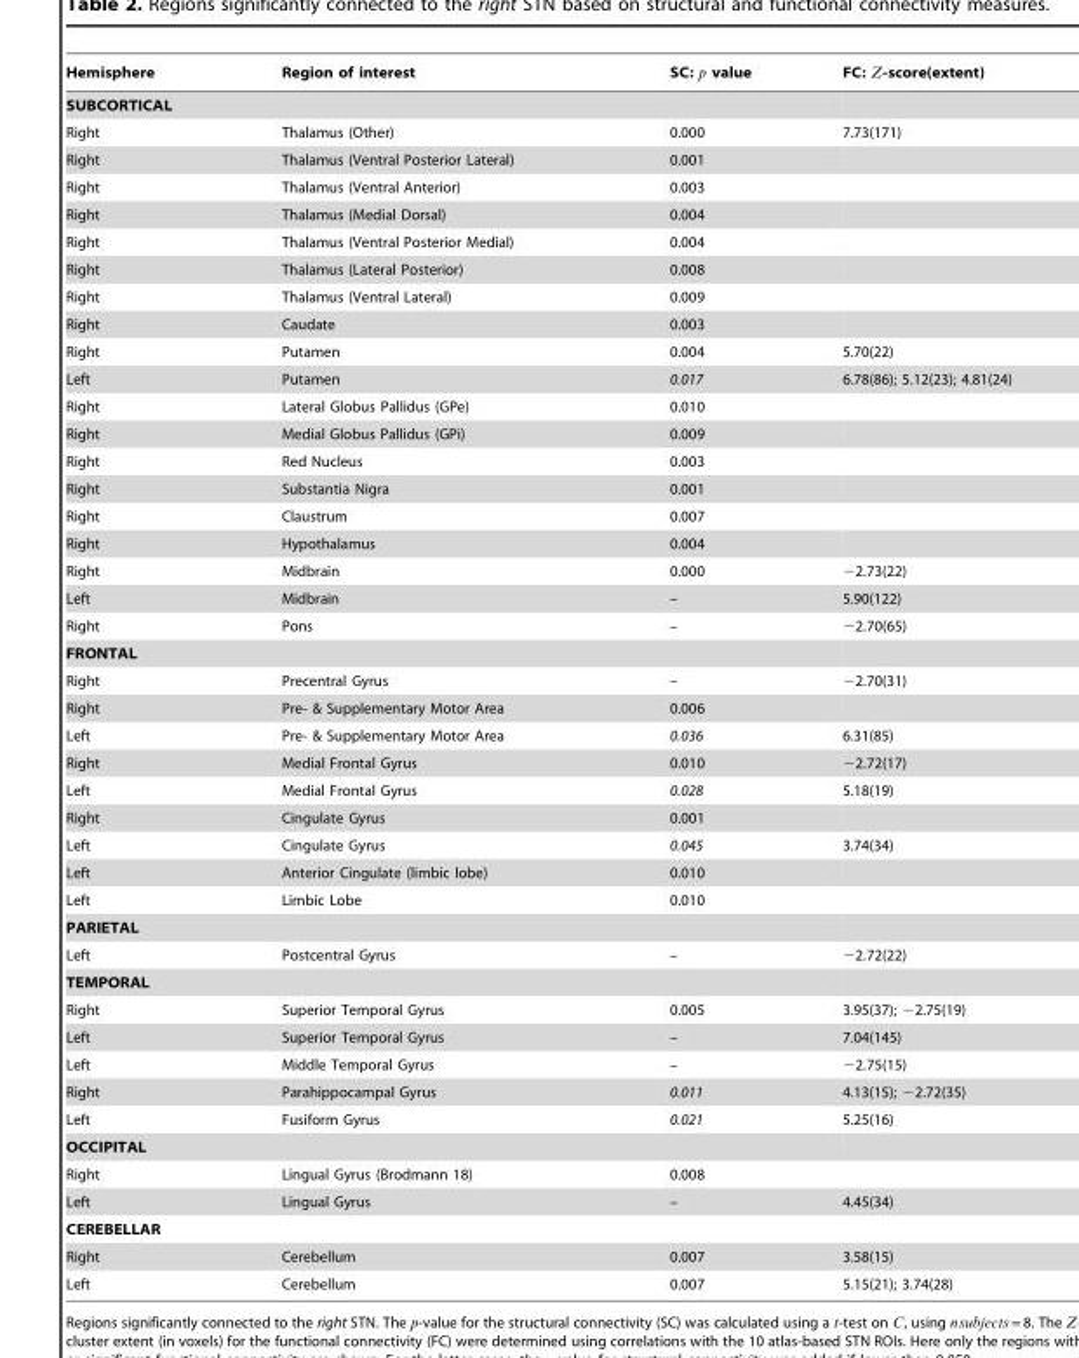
<table><thead><tr><td>Hemisphere</td><td>Region of interest</td><td>SC: p value</td><td>FC: Z-score(extent)</td></tr></thead><tbody><tr><td colspan="4">SUBCORTICAL</td></tr><tr><td>Right</td><td>Thalamus (Other)</td><td>0.000</td><td>7.73(171)</td></tr><tr><td>Right</td><td>Thalamus (Ventral Posterior Lateral)</td><td>0.001</td><td></td></tr><tr><td>Right</td><td>Thalamus (Ventral Anterior)</td><td>0.003</td><td></td></tr><tr><td>Right</td><td>Thalamus (Medial Dorsal)</td><td>0.004</td><td></td></tr><tr><td>Right</td><td>Thalamus (Ventral Posterior Medial)</td><td>0.004</td><td></td></tr><tr><td>Right</td><td>Thalamus (Lateral Posterior)</td><td>0.008</td><td></td></tr><tr><td>Right</td><td>Thalamus (Ventral Lateral)</td><td>0.009</td><td></td></tr><tr><td>Right</td><td>Caudate</td><td>0.003</td><td></td></tr><tr><td>Right</td><td>Putamen</td><td>0.004</td><td>5.70(22)</td></tr><tr><td>Left</td><td>Putamen</td><td>0.017</td><td>6.78(86); 5.12(23); 4.81(24)</td></tr><tr><td>Right</td><td>Lateral Globus Pallidus (GPe)</td><td>0.010</td><td></td></tr><tr><td>Right</td><td>Medial Globus Pallidus (GPi)</td><td>0.009</td><td></td></tr><tr><td>Right</td><td>Red Nucleus</td><td>0.003</td><td></td></tr><tr><td>Right</td><td>Substantia Nigra</td><td>0.001</td><td></td></tr><tr><td>Right</td><td>Claustrum</td><td>0.007</td><td></td></tr><tr><td>Right</td><td>Hypothalamus</td><td>0.004</td><td></td></tr><tr><td>Right</td><td>Midbrain</td><td>0.000</td><td>−2.73(22)</td></tr><tr><td>Left</td><td>Midbrain</td><td>–</td><td>5.90(122)</td></tr><tr><td>Right</td><td>Pons</td><td>–</td><td>−2.70(65)</td></tr><tr><td colspan="4">FRONTAL</td></tr><tr><td>Right</td><td>Precentral Gyrus</td><td>–</td><td>−2.70(31)</td></tr><tr><td>Right</td><td>Pre- &amp; Supplementary Motor Area</td><td>0.006</td><td></td></tr><tr><td>Left</td><td>Pre- &amp; Supplementary Motor Area</td><td>0.036</td><td>6.31(85)</td></tr><tr><td>Right</td><td>Medial Frontal Gyrus</td><td>0.010</td><td>−2.72(17)</td></tr><tr><td>Left</td><td>Medial Frontal Gyrus</td><td>0.028</td><td>5.18(19)</td></tr><tr><td>Right</td><td>Cingulate Gyrus</td><td>0.001</td><td></td></tr><tr><td>Left</td><td>Cingulate Gyrus</td><td>0.045</td><td>3.74(34)</td></tr><tr><td>Left</td><td>Anterior Cingulate (limbic lobe)</td><td>0.010</td><td></td></tr><tr><td>Left</td><td>Limbic Lobe</td><td>0.010</td><td></td></tr><tr><td colspan="4">PARIETAL</td></tr><tr><td>Left</td><td>Postcentral Gyrus</td><td>–</td><td>−2.72(22)</td></tr><tr><td colspan="4">TEMPORAL</td></tr><tr><td>Right</td><td>Superior Temporal Gyrus</td><td>0.005</td><td>3.95(37); −2.75(19)</td></tr><tr><td>Left</td><td>Superior Temporal Gyrus</td><td>–</td><td>7.04(145)</td></tr><tr><td>Left</td><td>Middle Temporal Gyrus</td><td>–</td><td>−2.75(15)</td></tr><tr><td>Right</td><td>Parahippocampal Gyrus</td><td>0.011</td><td>4.13(15); −2.72(35)</td></tr><tr><td>Left</td><td>Fusiform Gyrus</td><td>0.021</td><td>5.25(16)</td></tr><tr><td colspan="4">OCCIPITAL</td></tr><tr><td>Right</td><td>Lingual Gyrus (Brodmann 18)</td><td>0.008</td><td></td></tr><tr><td>Left</td><td>Lingual Gyrus</td><td>–</td><td>4.45(34)</td></tr><tr><td colspan="4">CEREBELLAR</td></tr><tr><td>Right</td><td>Cerebellum</td><td>0.007</td><td>3.58(15)</td></tr><tr><td>Left</td><td>Cerebellum</td><td>0.007</td><td>5.15(21); 3.74(28)</td></tr></tbody></table>